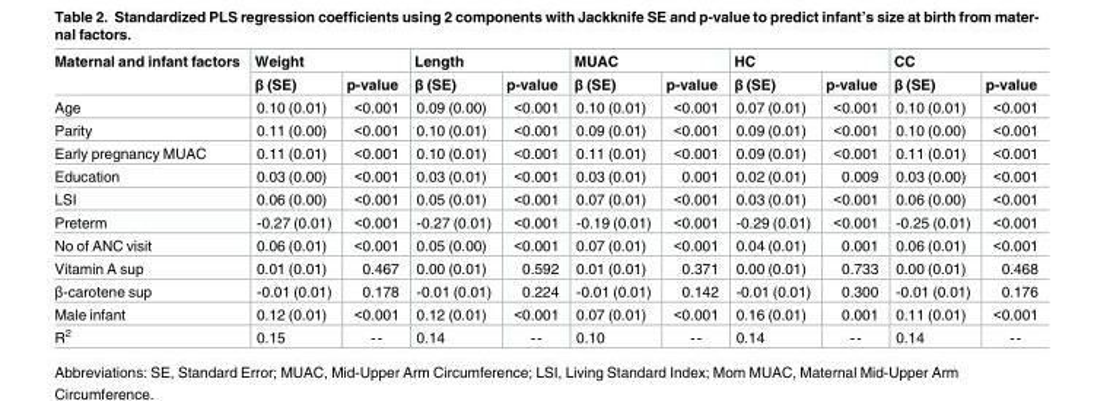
<table><thead><tr><td rowspan="2">Maternal and infant factors</td><td colspan="2">Weight</td><td colspan="2">Length</td><td colspan="2">MUAC</td><td colspan="2">HC</td><td colspan="2">CC</td></tr><tr><td>β (SE)</td><td>p-value</td><td>β (SE)</td><td>p-value</td><td>β (SE)</td><td>p-value</td><td>β (SE)</td><td>p-value</td><td>β (SE)</td><td>p-value</td></tr></thead><tbody><tr><td>Age</td><td>0.10 (0.01)</td><td>&lt;0.001</td><td>0.09 (0.00)</td><td>&lt;0.001</td><td>0.10 (0.01)</td><td>&lt;0.001</td><td>0.07 (0.01)</td><td>&lt;0.001</td><td>0.10 (0.01)</td><td>&lt;0.001</td></tr><tr><td>Parity</td><td>0.11 (0.00)</td><td>&lt;0.001</td><td>0.10 (0.01)</td><td>&lt;0.001</td><td>0.09 (0.01)</td><td>&lt;0.001</td><td>0.09 (0.01)</td><td>&lt;0.001</td><td>0.10 (0.00)</td><td>&lt;0.001</td></tr><tr><td>Early pregnancy MUAC</td><td>0.11 (0.01)</td><td>&lt;0.001</td><td>0.10 (0.01)</td><td>&lt;0.001</td><td>0.11 (0.01)</td><td>&lt;0.001</td><td>0.09 (0.01)</td><td>&lt;0.001</td><td>0.11 (0.01)</td><td>&lt;0.001</td></tr><tr><td>Education</td><td>0.03 (0.00)</td><td>&lt;0.001</td><td>0.03 (0.01)</td><td>&lt;0.001</td><td>0.03 (0.01)</td><td>0.001</td><td>0.02 (0.01)</td><td>0.009</td><td>0.03 (0.00)</td><td>&lt;0.001</td></tr><tr><td>LSI</td><td>0.06 (0.00)</td><td>&lt;0.001</td><td>0.05 (0.01)</td><td>&lt;0.001</td><td>0.07 (0.01)</td><td>&lt;0.001</td><td>0.03 (0.01)</td><td>&lt;0.001</td><td>0.06 (0.00)</td><td>&lt;0.001</td></tr><tr><td>Preterm</td><td>-0.27 (0.01)</td><td>&lt;0.001</td><td>-0.27 (0.01)</td><td>&lt;0.001</td><td>-0.19 (0.01)</td><td>&lt;0.001</td><td>-0.29 (0.01)</td><td>&lt;0.001</td><td>-0.25 (0.01)</td><td>&lt;0.001</td></tr><tr><td>No of ANC visit</td><td>0.06 (0.01)</td><td>&lt;0.001</td><td>0.05 (0.00)</td><td>&lt;0.001</td><td>0.07 (0.01)</td><td>&lt;0.001</td><td>0.04 (0.01)</td><td>0.001</td><td>0.06 (0.01)</td><td>&lt;0.001</td></tr><tr><td>Vitamin A sup</td><td>0.01 (0.01)</td><td>0.467</td><td>0.00 (0.01)</td><td>0.592</td><td>0.01 (0.01)</td><td>0.371</td><td>0.00 (0.01)</td><td>0.733</td><td>0.00 (0.01)</td><td>0.468</td></tr><tr><td>β-carotene sup</td><td>-0.01 (0.01)</td><td>0.178</td><td>-0.01 (0.01)</td><td>0.224</td><td>-0.01 (0.01)</td><td>0.142</td><td>-0.01 (0.01)</td><td>0.300</td><td>-0.01 (0.01)</td><td>0.176</td></tr><tr><td>Male infant</td><td>0.12 (0.01)</td><td>&lt;0.001</td><td>0.12 (0.01)</td><td>&lt;0.001</td><td>0.07 (0.01)</td><td>&lt;0.001</td><td>0.16 (0.01)</td><td>0.001</td><td>0.11 (0.01)</td><td>&lt;0.001</td></tr><tr><td>R<sup>2</sup></td><td>0.15</td><td>--</td><td>0.14</td><td>--</td><td>0.10</td><td>--</td><td>0.14</td><td>--</td><td>0.14</td><td>--</td></tr></tbody></table>